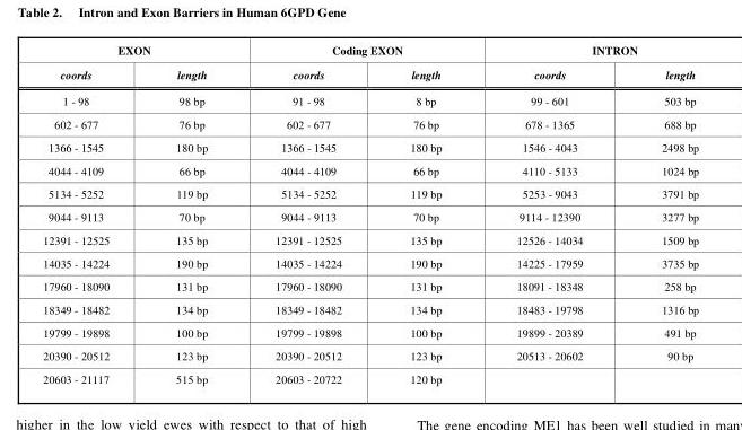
<table><thead><tr><td colspan="2">EXON</td><td colspan="2">Coding EXON</td><td colspan="2">INTRON</td></tr><tr><td>coords</td><td>length</td><td>coords</td><td>length</td><td>coords</td><td>length</td></tr></thead><tbody><tr><td>1 - 98</td><td>98 bp</td><td>91 - 98</td><td>8 bp</td><td>99 - 601</td><td>503 bp</td></tr><tr><td>602 - 677</td><td>76 bp</td><td>602 - 677</td><td>76 bp</td><td>678 - 1365</td><td>688 bp</td></tr><tr><td>1366 - 1545</td><td>180 bp</td><td>1366 - 1545</td><td>180 bp</td><td>1546 - 4043</td><td>2498 bp</td></tr><tr><td>4044 - 4109</td><td>66 bp</td><td>4044 - 4109</td><td>66 bp</td><td>4110 - 5133</td><td>1024 bp</td></tr><tr><td>5134 - 5252</td><td>119 bp</td><td>5134 - 5252</td><td>119 bp</td><td>5253 - 9043</td><td>3791 bp</td></tr><tr><td>9044 - 9113</td><td>70 bp</td><td>9044 - 9113</td><td>70 bp</td><td>9114 - 12390</td><td>3277 bp</td></tr><tr><td>12391 - 12525</td><td>135 bp</td><td>12391 - 12525</td><td>135 bp</td><td>12526 - 14034</td><td>1509 bp</td></tr><tr><td>14035 - 14224</td><td>190 bp</td><td>14035 - 14224</td><td>190 bp</td><td>14225 - 17959</td><td>3735 bp</td></tr><tr><td>17960 - 18090</td><td>131 bp</td><td>17960 - 18090</td><td>131 bp</td><td>18091 - 18348</td><td>258 bp</td></tr><tr><td>18349 - 18482</td><td>134 bp</td><td>18349 - 18482</td><td>134 bp</td><td>18483 - 19798</td><td>1316 bp</td></tr><tr><td>19799 - 19898</td><td>100 bp</td><td>19799 - 19898</td><td>100 bp</td><td>19899 - 20389</td><td>491 bp</td></tr><tr><td>20390 - 20512</td><td>123 bp</td><td>20390 - 20512</td><td>123 bp</td><td>20513 - 20602</td><td>90 bp</td></tr><tr><td>20603 - 21117</td><td>515 bp</td><td>20603 - 20722</td><td>120 bp</td><td></td><td></td></tr></tbody></table>